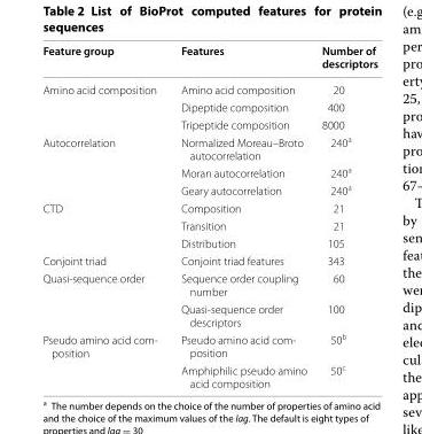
<table><thead><tr><td>Feature group</td><td>Features</td><td>Number of descriptors</td></tr></thead><tbody><tr><td rowspan="3">Amino acid composition</td><td>Amino acid composition</td><td>20</td></tr><tr><td>Dipeptide composition</td><td>400</td></tr><tr><td>Tripeptide composition</td><td>8000</td></tr><tr><td rowspan="3">Autocorrelation</td><td>Normalized Moreau–Broto autocorrelation</td><td>240<sup>a</sup></td></tr><tr><td>Moran autocorrelation</td><td>240<sup>a</sup></td></tr><tr><td>Geary autocorrelation</td><td>240<sup>a</sup></td></tr><tr><td rowspan="3">CTD</td><td>Composition</td><td>21</td></tr><tr><td>Transition</td><td>21</td></tr><tr><td>Distribution</td><td>105</td></tr><tr><td>Conjoint triad</td><td>Conjoint triad features</td><td>343</td></tr><tr><td rowspan="2">Quasi‑sequence order</td><td>Sequence order coupling number</td><td>60</td></tr><tr><td>Quasi‑sequence order descriptors</td><td>100</td></tr><tr><td rowspan="2">Pseudo amino acid com‑ position</td><td>Pseudo amino acid com‑ position</td><td>50<sup>b</sup></td></tr><tr><td>Amphiphilic pseudo amino acid composition</td><td>50<sup>c</sup></td></tr></tbody></table>